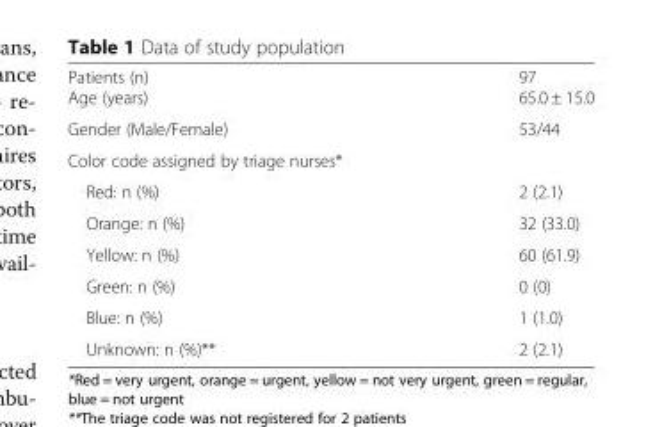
<table><thead><tr><td>Patients (n)</td><td>97</td></tr></thead><tbody><tr><td>Age (years)</td><td>65.0 ± 15.0</td></tr><tr><td>Gender (Male/Female)</td><td>53/44</td></tr><tr><td colspan="2">Color code assigned by triage nurses*</td></tr><tr><td>Red: n (%)</td><td>2 (2.1)</td></tr><tr><td>Orange: n (%)</td><td>32 (33.0)</td></tr><tr><td>Yellow: n (%)</td><td>60 (61.9)</td></tr><tr><td>Green: n (%)</td><td>0 (0)</td></tr><tr><td>Blue: n (%)</td><td>1 (1.0)</td></tr><tr><td>Unknown: n (%)**</td><td>2 (2.1)</td></tr></tbody></table>